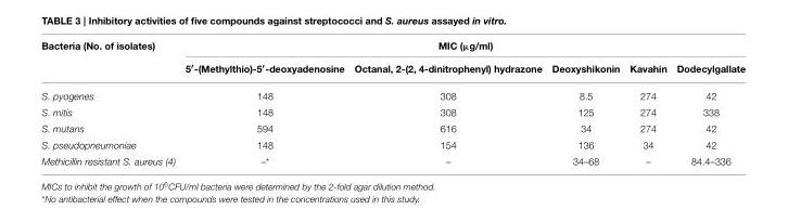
<table><thead><tr><td rowspan="2">Bacteria (No. of isolates)</td><td colspan="5">MIC (µg/ml)</td></tr><tr><td>5′-(Methylthio)-5′-deoxyadenosine</td><td>Octanal, 2-(2, 4-dinitrophenyl) hydrazone</td><td>Deoxyshikonin</td><td>Kavahin</td><td>Dodecylgallate</td></tr></thead><tbody><tr><td>S. pyogenes</td><td>148</td><td>308</td><td>8.5</td><td>274</td><td>42</td></tr><tr><td>S. mitis</td><td>148</td><td>308</td><td>125</td><td>274</td><td>338</td></tr><tr><td>S. mutans</td><td>594</td><td>616</td><td>34</td><td>274</td><td>42</td></tr><tr><td>S. pseudopneumoniae</td><td>148</td><td>154</td><td>136</td><td>34</td><td>42</td></tr><tr><td>Methicillin resistant S. aureus (4)</td><td>–*</td><td>–</td><td>34–68</td><td>–</td><td>84.4–336</td></tr></tbody></table>